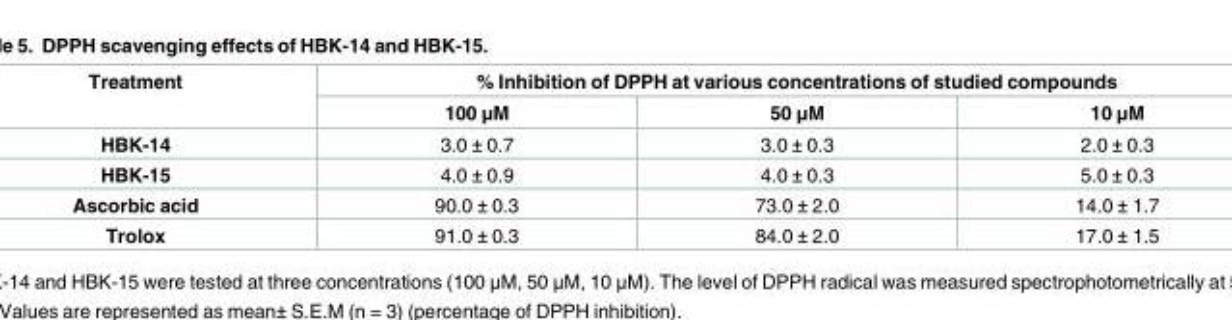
<table><thead><tr><td rowspan="2">Treatment</td><td colspan="3">% Inhibition of DPPH at various concentrations of studied compounds</td></tr><tr><td>100 μM</td><td>50 μM</td><td>10 μM</td></tr></thead><tbody><tr><td>HBK-14</td><td>3.0 ± 0.7</td><td>3.0 ± 0.3</td><td>2.0 ± 0.3</td></tr><tr><td>HBK-15</td><td>4.0 ± 0.9</td><td>4.0 ± 0.3</td><td>5.0 ± 0.3</td></tr><tr><td>Ascorbic acid</td><td>90.0 ± 0.3</td><td>73.0 ± 2.0</td><td>14.0 ± 1.7</td></tr><tr><td>Trolox</td><td>91.0 ± 0.3</td><td>84.0 ± 2.0</td><td>17.0 ± 1.5</td></tr></tbody></table>